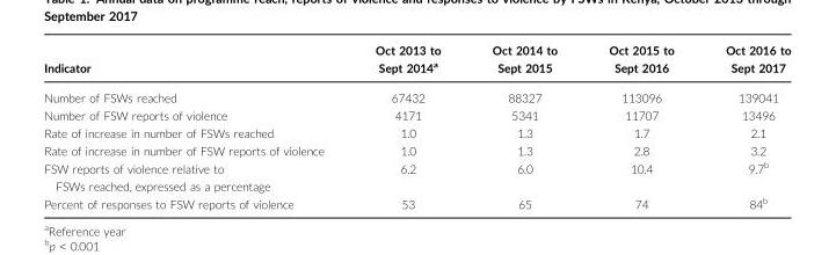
<table><thead><tr><td>Indicator</td><td>Oct 2013 to Sept 2014<sup>a</sup></td><td>Oct 2014 to Sept 2015</td><td>Oct 2015 to Sept 2016</td><td>Oct 2016 to Sept 2017</td></tr></thead><tbody><tr><td>Number of FSWs reached</td><td>67432</td><td>88327</td><td>113096</td><td>139041</td></tr><tr><td>Number of FSW reports of violence</td><td>4171</td><td>5341</td><td>11707</td><td>13496</td></tr><tr><td>Rate of increase in number of FSWs reached</td><td>1.0</td><td>1.3</td><td>1.7</td><td>2.1</td></tr><tr><td>Rate of increase in number of FSW reports of violence</td><td>1.0</td><td>1.3</td><td>2.8</td><td>3.2</td></tr><tr><td>FSW reports of violence relative to FSWs reached, expressed as a percentage</td><td>6.2</td><td>6.0</td><td>10.4</td><td>9.7<sup>b</sup></td></tr><tr><td>Percent of responses to FSW reports of violence</td><td>53</td><td>65</td><td>74</td><td>84<sup>b</sup></td></tr></tbody></table>